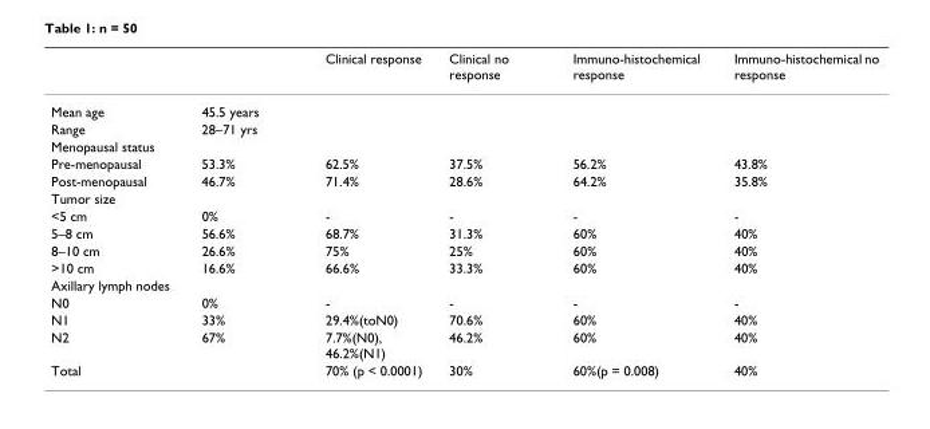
<table><thead><tr><td></td><td></td><td>Clinical response</td><td>Clinical no response</td><td>Immuno-histochemical response</td><td>Immuno-histochemical no response</td></tr></thead><tbody><tr><td>Mean age</td><td>45.5 years</td><td></td><td></td><td></td><td></td></tr><tr><td>Range</td><td>28–71 yrs</td><td></td><td></td><td></td><td></td></tr><tr><td colspan="6">Menopausal status</td></tr><tr><td>Pre-menopausal</td><td>53.3%</td><td>62.5%</td><td>37.5%</td><td>56.2%</td><td>43.8%</td></tr><tr><td>Post-menopausal</td><td>46.7%</td><td>71.4%</td><td>28.6%</td><td>64.2%</td><td>35.8%</td></tr><tr><td colspan="6">Tumor size</td></tr><tr><td>&lt;5 cm</td><td>0%</td><td>-</td><td>-</td><td>-</td><td>-</td></tr><tr><td>5–8 cm</td><td>56.6%</td><td>68.7%</td><td>31.3%</td><td>60%</td><td>40%</td></tr><tr><td>8–10 cm</td><td>26.6%</td><td>75%</td><td>25%</td><td>60%</td><td>40%</td></tr><tr><td>&gt;10 cm</td><td>16.6%</td><td>66.6%</td><td>33.3%</td><td>60%</td><td>40%</td></tr><tr><td colspan="6">Axillary lymph nodes</td></tr><tr><td>N0</td><td>0%</td><td>-</td><td>-</td><td>-</td><td>-</td></tr><tr><td>N1</td><td>33%</td><td>29.4%(toN0)</td><td>70.6%</td><td>60%</td><td>40%</td></tr><tr><td>N2</td><td>67%</td><td>7.7%(N0), 46.2%(N1)</td><td>46.2%</td><td>60%</td><td>40%</td></tr><tr><td>Total</td><td></td><td>70% (p &lt; 0.0001)</td><td>30%</td><td>60%(p = 0.008)</td><td>40%</td></tr></tbody></table>